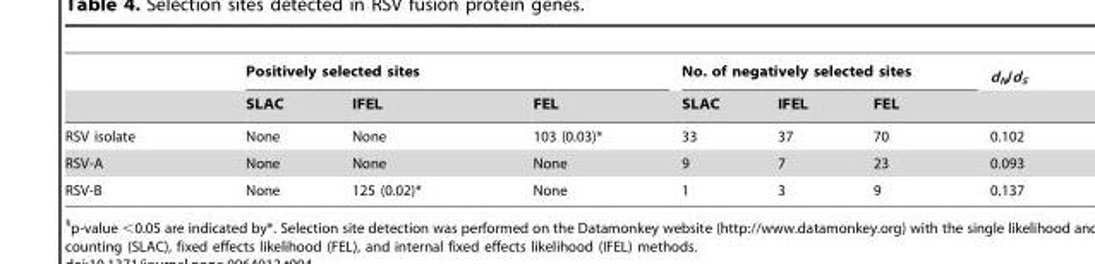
<table><thead><tr><td rowspan="2"></td><td colspan="3">Positively selected sites</td><td colspan="3">No. of negatively selected sites</td><td rowspan="2">d<sub>N</sub>/d<sub>S</sub></td></tr><tr><td>SLAC</td><td>IFEL</td><td>FEL</td><td>SLAC</td><td>IFEL</td><td>FEL</td></tr></thead><tbody><tr><td>RSV isolate</td><td>None</td><td>None</td><td>103 (0.03)*</td><td>33</td><td>37</td><td>70</td><td>0.102</td></tr><tr><td>RSV-A</td><td>None</td><td>None</td><td>None</td><td>9</td><td>7</td><td>23</td><td>0.093</td></tr><tr><td>RSV-B</td><td>None</td><td>125 (0.02)*</td><td>None</td><td>1</td><td>3</td><td>9</td><td>0.137</td></tr></tbody></table>